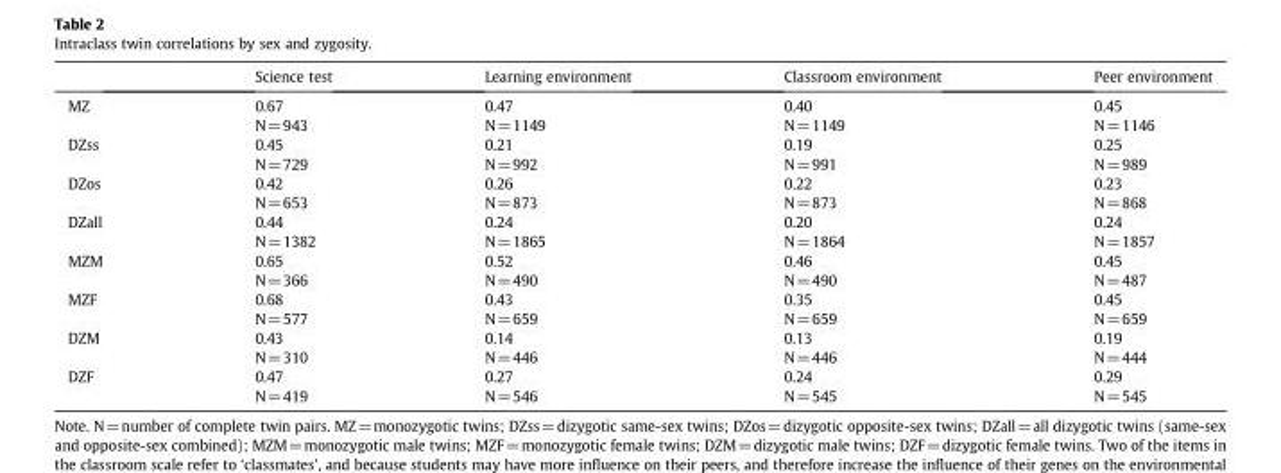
<table><thead><tr><td></td><td>Science test</td><td>Learning environment</td><td>Classroom environment</td><td>Peer environment</td></tr></thead><tbody><tr><td rowspan="2">MZ</td><td>0.67</td><td>0.47</td><td>0.40</td><td>0.45</td></tr><tr><td>N=943</td><td>N=1149</td><td>N=1149</td><td>N=1146</td></tr><tr><td rowspan="2">DZss</td><td>0.45</td><td>0.21</td><td>0.19</td><td>0.25</td></tr><tr><td>N=729</td><td>N=992</td><td>N=991</td><td>N=989</td></tr><tr><td rowspan="2">DZos</td><td>0.42</td><td>0.26</td><td>0.22</td><td>0.23</td></tr><tr><td>N=653</td><td>N=873</td><td>N=873</td><td>N=868</td></tr><tr><td rowspan="2">DZall</td><td>0.44</td><td>0.24</td><td>0.20</td><td>0.24</td></tr><tr><td>N=1382</td><td>N=1865</td><td>N=1864</td><td>N=1857</td></tr><tr><td rowspan="2">MZM</td><td>0.65</td><td>0.52</td><td>0.46</td><td>0.45</td></tr><tr><td>N=366</td><td>N=490</td><td>N=490</td><td>N=487</td></tr><tr><td rowspan="2">MZF</td><td>0.68</td><td>0.43</td><td>0.35</td><td>0.45</td></tr><tr><td>N=577</td><td>N=659</td><td>N=659</td><td>N=659</td></tr><tr><td rowspan="2">DZM</td><td>0.43</td><td>0.14</td><td>0.13</td><td>0.19</td></tr><tr><td>N=310</td><td>N=446</td><td>N=446</td><td>N=444</td></tr><tr><td rowspan="2">DZF</td><td>0.47</td><td>0.27</td><td>0.24</td><td>0.29</td></tr><tr><td>N=419</td><td>N=546</td><td>N=545</td><td>N=545</td></tr></tbody></table>